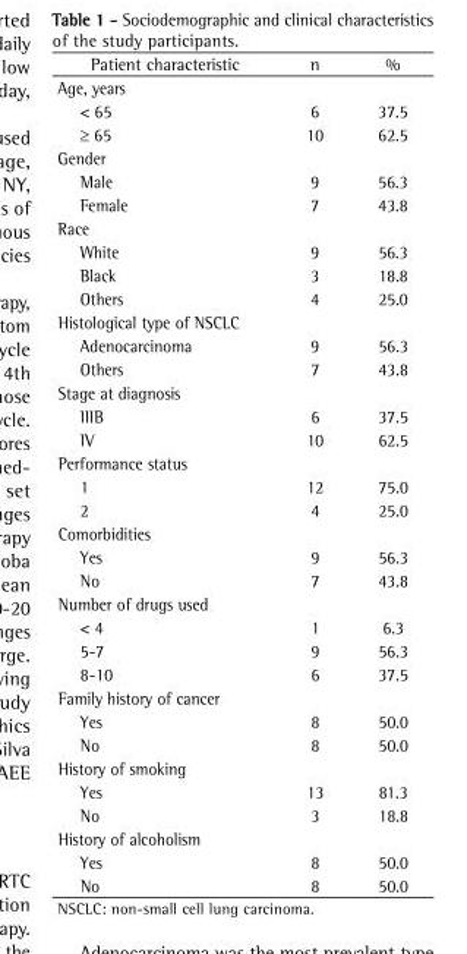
<table><thead><tr><td>Patient characteristic</td><td>n</td><td>%</td></tr></thead><tbody><tr><td colspan="3">Age, years</td></tr><tr><td>&lt; 65</td><td>6</td><td>37.5</td></tr><tr><td>≥ 65</td><td>10</td><td>62.5</td></tr><tr><td colspan="3">Gender</td></tr><tr><td>Male</td><td>9</td><td>56.3</td></tr><tr><td>Female</td><td>7</td><td>43.8</td></tr><tr><td colspan="3">Race</td></tr><tr><td>White</td><td>9</td><td>56.3</td></tr><tr><td>Black</td><td>3</td><td>18.8</td></tr><tr><td>Others</td><td>4</td><td>25.0</td></tr><tr><td colspan="3">Histological type of NSCLC</td></tr><tr><td>Adenocarcinoma</td><td>9</td><td>56.3</td></tr><tr><td>Others</td><td>7</td><td>43.8</td></tr><tr><td colspan="3">Stage at diagnosis</td></tr><tr><td>IIIB</td><td>6</td><td>37.5</td></tr><tr><td>IV</td><td>10</td><td>62.5</td></tr><tr><td colspan="3">Performance status</td></tr><tr><td>1</td><td>12</td><td>75.0</td></tr><tr><td>2</td><td>4</td><td>25.0</td></tr><tr><td colspan="3">Comorbidities</td></tr><tr><td>Yes</td><td>9</td><td>56.3</td></tr><tr><td>No</td><td>7</td><td>43.8</td></tr><tr><td colspan="3">Number of drugs used</td></tr><tr><td>&lt; 4</td><td>1</td><td>6.3</td></tr><tr><td>5-7</td><td>9</td><td>56.3</td></tr><tr><td>8-10</td><td>6</td><td>37.5</td></tr><tr><td colspan="3">Family history of cancer</td></tr><tr><td>Yes</td><td>8</td><td>50.0</td></tr><tr><td>No</td><td>8</td><td>50.0</td></tr><tr><td colspan="3">History of smoking</td></tr><tr><td>Yes</td><td>13</td><td>81.3</td></tr><tr><td>No</td><td>3</td><td>18.8</td></tr><tr><td colspan="3">History of alcoholism</td></tr><tr><td>Yes</td><td>8</td><td>50.0</td></tr><tr><td>No</td><td>8</td><td>50.0</td></tr></tbody></table>